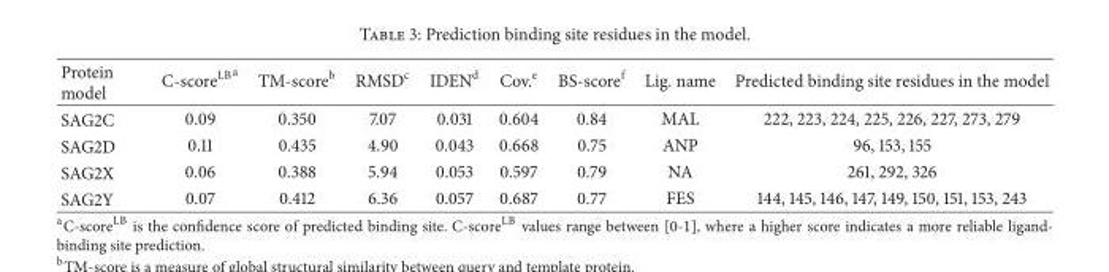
<table><thead><tr><td>Protein model</td><td>C-score<sup>LBa</sup></td><td>TM-score<sup>b</sup></td><td>RMSD<sup>c</sup></td><td>IDEN<sup>d</sup></td><td>Cov.<sup>e</sup></td><td>BS-score<sup>f</sup></td><td>Lig. name</td><td>Predicted binding site residues in the model</td></tr></thead><tbody><tr><td>SAG2C</td><td>0.09</td><td>0.350</td><td>7.07</td><td>0.031</td><td>0.604</td><td>0.84</td><td>MAL</td><td>222, 223, 224, 225, 226, 227, 273, 279</td></tr><tr><td>SAG2D</td><td>0.11</td><td>0.435</td><td>4.90</td><td>0.043</td><td>0.668</td><td>0.75</td><td>ANP</td><td>96, 153, 155</td></tr><tr><td>SAG2X</td><td>0.06</td><td>0.388</td><td>5.94</td><td>0.053</td><td>0.597</td><td>0.79</td><td>NA</td><td>261, 292, 326</td></tr><tr><td>SAG2Y</td><td>0.07</td><td>0.412</td><td>6.36</td><td>0.057</td><td>0.687</td><td>0.77</td><td>FES</td><td>144, 145, 146, 147, 149, 150, 151, 153, 243</td></tr></tbody></table>